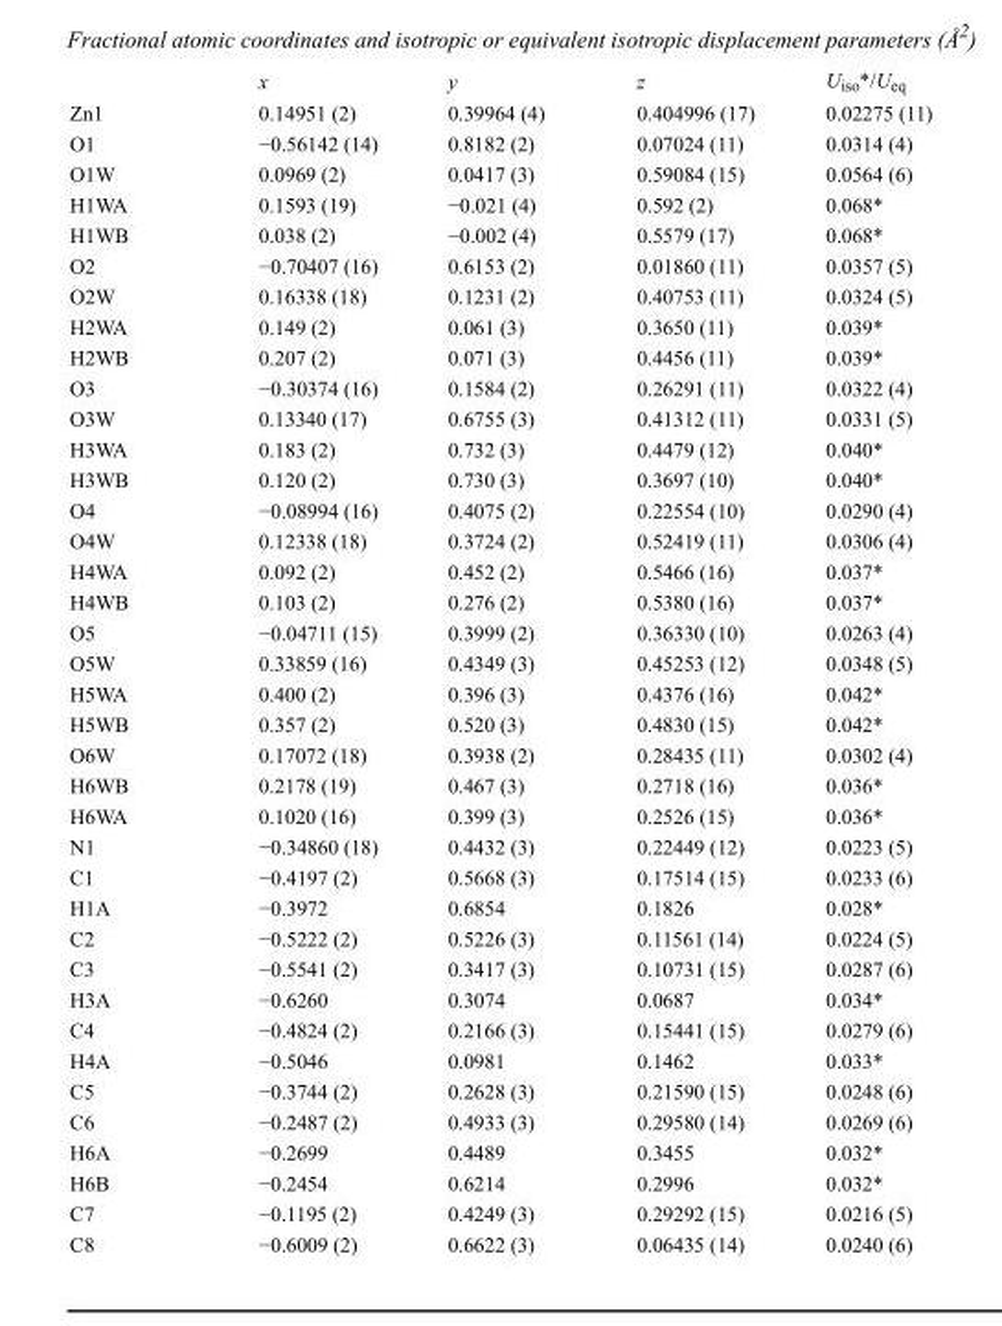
<table><thead><tr><td></td><td>x</td><td>y</td><td>z</td><td>U<sub>iso</sub>*/U<sub>eq</sub></td></tr></thead><tbody><tr><td>Zn1</td><td>0.14951 (2)</td><td>0.39964 (4)</td><td>0.404996 (17)</td><td>0.02275 (11)</td></tr><tr><td>O1</td><td>−0.56142 (14)</td><td>0.8182 (2)</td><td>0.07024 (11)</td><td>0.0314 (4)</td></tr><tr><td>O1W</td><td>0.0969 (2)</td><td>0.0417 (3)</td><td>0.59084 (15)</td><td>0.0564 (6)</td></tr><tr><td>H1WA</td><td>0.1593 (19)</td><td>−0.021 (4)</td><td>0.592 (2)</td><td>0.068*</td></tr><tr><td>H1WB</td><td>0.038 (2)</td><td>−0.002 (4)</td><td>0.5579 (17)</td><td>0.068*</td></tr><tr><td>O2</td><td>−0.70407 (16)</td><td>0.6153 (2)</td><td>0.01860 (11)</td><td>0.0357 (5)</td></tr><tr><td>O2W</td><td>0.16338 (18)</td><td>0.1231 (2)</td><td>0.40753 (11)</td><td>0.0324 (5)</td></tr><tr><td>H2WA</td><td>0.149 (2)</td><td>0.061 (3)</td><td>0.3650 (11)</td><td>0.039*</td></tr><tr><td>H2WB</td><td>0.207 (2)</td><td>0.071 (3)</td><td>0.4456 (11)</td><td>0.039*</td></tr><tr><td>O3</td><td>−0.30374 (16)</td><td>0.1584 (2)</td><td>0.26291 (11)</td><td>0.0322 (4)</td></tr><tr><td>O3W</td><td>0.13340 (17)</td><td>0.6755 (3)</td><td>0.41312 (11)</td><td>0.0331 (5)</td></tr><tr><td>H3WA</td><td>0.183 (2)</td><td>0.732 (3)</td><td>0.4479 (12)</td><td>0.040*</td></tr><tr><td>H3WB</td><td>0.120 (2)</td><td>0.730 (3)</td><td>0.3697 (10)</td><td>0.040*</td></tr><tr><td>O4</td><td>−0.08994 (16)</td><td>0.4075 (2)</td><td>0.22554 (10)</td><td>0.0290 (4)</td></tr><tr><td>O4W</td><td>0.12338 (18)</td><td>0.3724 (2)</td><td>0.52419 (11)</td><td>0.0306 (4)</td></tr><tr><td>H4WA</td><td>0.092 (2)</td><td>0.452 (2)</td><td>0.5466 (16)</td><td>0.037*</td></tr><tr><td>H4WB</td><td>0.103 (2)</td><td>0.276 (2)</td><td>0.5380 (16)</td><td>0.037*</td></tr><tr><td>O5</td><td>−0.04711 (15)</td><td>0.3999 (2)</td><td>0.36330 (10)</td><td>0.0263 (4)</td></tr><tr><td>O5W</td><td>0.33859 (16)</td><td>0.4349 (3)</td><td>0.45253 (12)</td><td>0.0348 (5)</td></tr><tr><td>H5WA</td><td>0.400 (2)</td><td>0.396 (3)</td><td>0.4376 (16)</td><td>0.042*</td></tr><tr><td>H5WB</td><td>0.357 (2)</td><td>0.520 (3)</td><td>0.4830 (15)</td><td>0.042*</td></tr><tr><td>O6W</td><td>0.17072 (18)</td><td>0.3938 (2)</td><td>0.28435 (11)</td><td>0.0302 (4)</td></tr><tr><td>H6WB</td><td>0.2178 (19)</td><td>0.467 (3)</td><td>0.2718 (16)</td><td>0.036*</td></tr><tr><td>H6WA</td><td>0.1020 (16)</td><td>0.399 (3)</td><td>0.2526 (15)</td><td>0.036*</td></tr><tr><td>N1</td><td>−0.34860 (18)</td><td>0.4432 (3)</td><td>0.22449 (12)</td><td>0.0223 (5)</td></tr><tr><td>C1</td><td>−0.4197 (2)</td><td>0.5668 (3)</td><td>0.17514 (15)</td><td>0.0233 (6)</td></tr><tr><td>H1A</td><td>−0.3972</td><td>0.6854</td><td>0.1826</td><td>0.028*</td></tr><tr><td>C2</td><td>−0.5222 (2)</td><td>0.5226 (3)</td><td>0.11561 (14)</td><td>0.0224 (5)</td></tr><tr><td>C3</td><td>−0.5541 (2)</td><td>0.3417 (3)</td><td>0.10731 (15)</td><td>0.0287 (6)</td></tr><tr><td>H3A</td><td>−0.6260</td><td>0.3074</td><td>0.0687</td><td>0.034*</td></tr><tr><td>C4</td><td>−0.4824 (2)</td><td>0.2166 (3)</td><td>0.15441 (15)</td><td>0.0279 (6)</td></tr><tr><td>H4A</td><td>−0.5046</td><td>0.0981</td><td>0.1462</td><td>0.033*</td></tr><tr><td>C5</td><td>−0.3744 (2)</td><td>0.2628 (3)</td><td>0.21590 (15)</td><td>0.0248 (6)</td></tr><tr><td>C6</td><td>−0.2487 (2)</td><td>0.4933 (3)</td><td>0.29580 (14)</td><td>0.0269 (6)</td></tr><tr><td>H6A</td><td>−0.2699</td><td>0.4489</td><td>0.3455</td><td>0.032*</td></tr><tr><td>H6B</td><td>−0.2454</td><td>0.6214</td><td>0.2996</td><td>0.032*</td></tr><tr><td>C7</td><td>−0.1195 (2)</td><td>0.4249 (3)</td><td>0.29292 (15)</td><td>0.0216 (5)</td></tr><tr><td>C8</td><td>−0.6009 (2)</td><td>0.6622 (3)</td><td>0.06435 (14)</td><td>0.0240 (6)</td></tr></tbody></table>